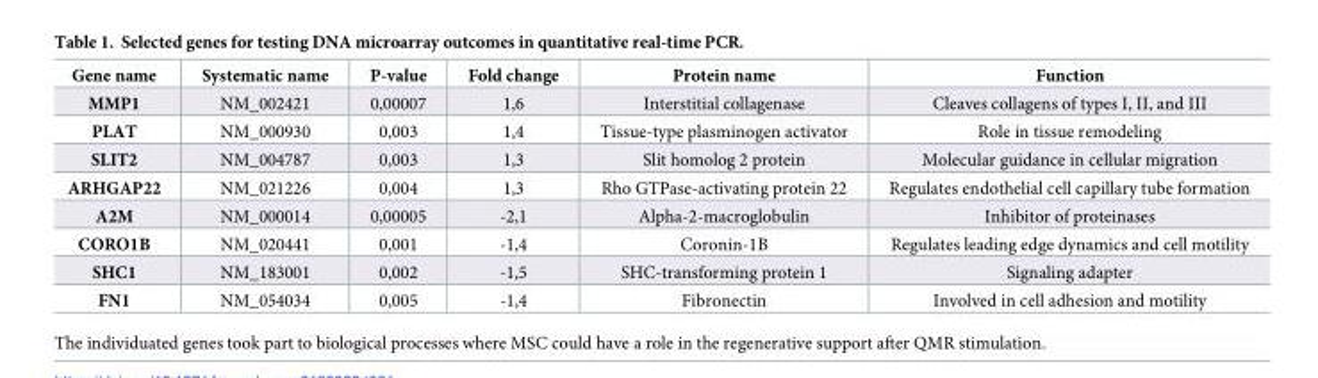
<table><thead><tr><td>Gene name</td><td>Systematic name</td><td>P-value</td><td>Fold change</td><td>Protein name</td><td>Function</td></tr></thead><tbody><tr><td>MMP1</td><td>NM_002421</td><td>0,00007</td><td>1,6</td><td>Interstitial collagenase</td><td>Cleaves collagens of types I, II, and III</td></tr><tr><td>PLAT</td><td>NM_000930</td><td>0,003</td><td>1,4</td><td>Tissue-type plasminogen activator</td><td>Role in tissue remodeling</td></tr><tr><td>SLIT2</td><td>NM_004787</td><td>0,003</td><td>1,3</td><td>Slit homolog 2 protein</td><td>Molecular guidance in cellular migration</td></tr><tr><td>ARHGAP22</td><td>NM_021226</td><td>0,004</td><td>1,3</td><td>Rho GTPase-activating protein 22</td><td>Regulates endothelial cell capillary tube formation</td></tr><tr><td>A2M</td><td>NM_000014</td><td>0,00005</td><td>-2,1</td><td>Alpha-2-macroglobulin</td><td>Inhibitor of proteinases</td></tr><tr><td>CORO1B</td><td>NM_020441</td><td>0,001</td><td>-1,4</td><td>Coronin-1B</td><td>Regulates leading edge dynamics and cell motility</td></tr><tr><td>SHC1</td><td>NM_183001</td><td>0,002</td><td>-1,5</td><td>SHC-transforming protein 1</td><td>Signaling adapter</td></tr><tr><td>FN1</td><td>NM_054034</td><td>0,005</td><td>-1,4</td><td>Fibronectin</td><td>Involved in cell adhesion and motility</td></tr></tbody></table>